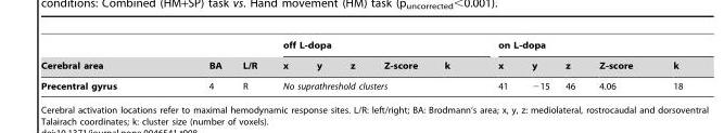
<table><thead><tr><td rowspan="2">Cerebral area</td><td rowspan="2">BA</td><td rowspan="2">L/R</td><td colspan="5">off L-dopa</td><td colspan="5">on L-dopa</td></tr><tr><td>x</td><td>y</td><td>z</td><td>Z-score</td><td>k</td><td>x</td><td>y</td><td>z</td><td>Z-score</td><td>k</td></tr></thead><tbody><tr><td>Precentral gyrus</td><td>4</td><td>R</td><td colspan="5">No suprathreshold clusters</td><td>41</td><td>−15</td><td>46</td><td>4.06</td><td>18</td></tr></tbody></table>